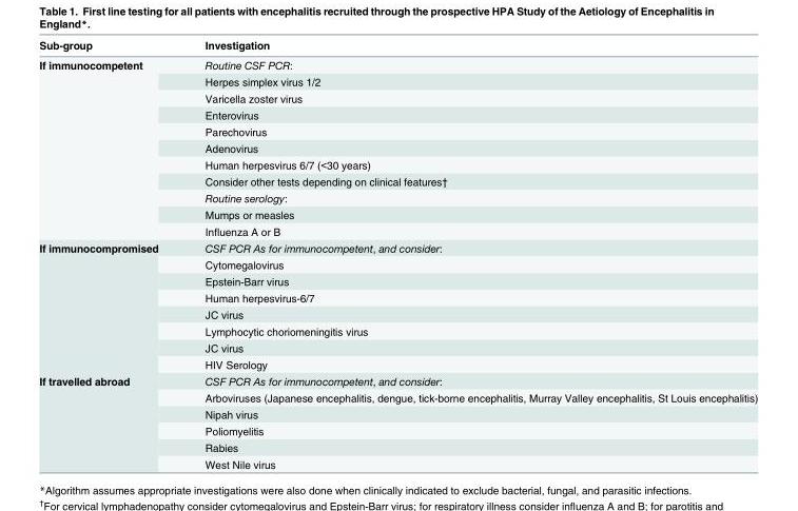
<table><thead><tr><td>Sub-group</td><td>Investigation</td></tr></thead><tbody><tr><td rowspan="11">If immunocompetent</td><td>Routine CSF PCR:</td></tr><tr><td>Herpes simplex virus 1/2</td></tr><tr><td>Varicella zoster virus</td></tr><tr><td>Enterovirus</td></tr><tr><td>Parechovirus</td></tr><tr><td>Adenovirus</td></tr><tr><td>Human herpesvirus 6/7 (&lt;30 years)</td></tr><tr><td>Consider other tests depending on clinical features†</td></tr><tr><td>Routine serology:</td></tr><tr><td>Mumps or measles</td></tr><tr><td>Influenza A or B</td></tr><tr><td rowspan="8">If immunocompromised</td><td>CSF PCR As for immunocompetent, and consider:</td></tr><tr><td>Cytomegalovirus</td></tr><tr><td>Epstein-Barr virus</td></tr><tr><td>Human herpesvirus-6/7</td></tr><tr><td>JC virus</td></tr><tr><td>Lymphocytic choriomeningitis virus</td></tr><tr><td>JC virus</td></tr><tr><td>HIV Serology</td></tr><tr><td rowspan="6">If travelled abroad</td><td>CSF PCR As for immunocompetent, and consider:</td></tr><tr><td>Arboviruses (Japanese encephalitis, dengue, tick-borne encephalitis, Murray Valley encephalitis, St Louis encephalitis)</td></tr><tr><td>Nipah virus</td></tr><tr><td>Poliomyelitis</td></tr><tr><td>Rabies</td></tr><tr><td>West Nile virus</td></tr></tbody></table>